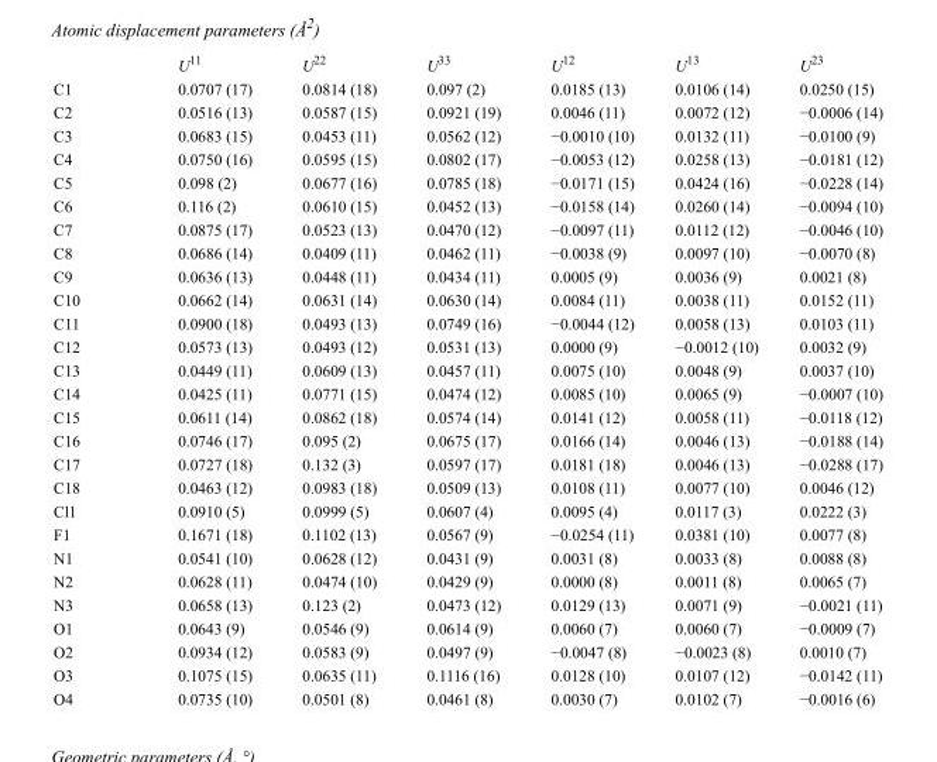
<table><thead><tr><td></td><td>U<sup>11</sup></td><td>U<sup>22</sup></td><td>U<sup>33</sup></td><td>U<sup>12</sup></td><td>U<sup>13</sup></td><td>U<sup>23</sup></td></tr></thead><tbody><tr><td>C1</td><td>0.0707 (17)</td><td>0.0814 (18)</td><td>0.097 (2)</td><td>0.0185 (13)</td><td>0.0106 (14)</td><td>0.0250 (15)</td></tr><tr><td>C2</td><td>0.0516 (13)</td><td>0.0587 (15)</td><td>0.0921 (19)</td><td>0.0046 (11)</td><td>0.0072 (12)</td><td>−0.0006 (14)</td></tr><tr><td>C3</td><td>0.0683 (15)</td><td>0.0453 (11)</td><td>0.0562 (12)</td><td>−0.0010 (10)</td><td>0.0132 (11)</td><td>−0.0100 (9)</td></tr><tr><td>C4</td><td>0.0750 (16)</td><td>0.0595 (15)</td><td>0.0802 (17)</td><td>−0.0053 (12)</td><td>0.0258 (13)</td><td>−0.0181 (12)</td></tr><tr><td>C5</td><td>0.098 (2)</td><td>0.0677 (16)</td><td>0.0785 (18)</td><td>−0.0171 (15)</td><td>0.0424 (16)</td><td>−0.0228 (14)</td></tr><tr><td>C6</td><td>0.116 (2)</td><td>0.0610 (15)</td><td>0.0452 (13)</td><td>−0.0158 (14)</td><td>0.0260 (14)</td><td>−0.0094 (10)</td></tr><tr><td>C7</td><td>0.0875 (17)</td><td>0.0523 (13)</td><td>0.0470 (12)</td><td>−0.0097 (11)</td><td>0.0112 (12)</td><td>−0.0046 (10)</td></tr><tr><td>C8</td><td>0.0686 (14)</td><td>0.0409 (11)</td><td>0.0462 (11)</td><td>−0.0038 (9)</td><td>0.0097 (10)</td><td>−0.0070 (8)</td></tr><tr><td>C9</td><td>0.0636 (13)</td><td>0.0448 (11)</td><td>0.0434 (11)</td><td>0.0005 (9)</td><td>0.0036 (9)</td><td>0.0021 (8)</td></tr><tr><td>C10</td><td>0.0662 (14)</td><td>0.0631 (14)</td><td>0.0630 (14)</td><td>0.0084 (11)</td><td>0.0038 (11)</td><td>0.0152 (11)</td></tr><tr><td>C11</td><td>0.0900 (18)</td><td>0.0493 (13)</td><td>0.0749 (16)</td><td>−0.0044 (12)</td><td>0.0058 (13)</td><td>0.0103 (11)</td></tr><tr><td>C12</td><td>0.0573 (13)</td><td>0.0493 (12)</td><td>0.0531 (13)</td><td>0.0000 (9)</td><td>−0.0012 (10)</td><td>0.0032 (9)</td></tr><tr><td>C13</td><td>0.0449 (11)</td><td>0.0609 (13)</td><td>0.0457 (11)</td><td>0.0075 (10)</td><td>0.0048 (9)</td><td>0.0037 (10)</td></tr><tr><td>C14</td><td>0.0425 (11)</td><td>0.0771 (15)</td><td>0.0474 (12)</td><td>0.0085 (10)</td><td>0.0065 (9)</td><td>−0.0007 (10)</td></tr><tr><td>C15</td><td>0.0611 (14)</td><td>0.0862 (18)</td><td>0.0574 (14)</td><td>0.0141 (12)</td><td>0.0058 (11)</td><td>−0.0118 (12)</td></tr><tr><td>C16</td><td>0.0746 (17)</td><td>0.095 (2)</td><td>0.0675 (17)</td><td>0.0166 (14)</td><td>0.0046 (13)</td><td>−0.0188 (14)</td></tr><tr><td>C17</td><td>0.0727 (18)</td><td>0.132 (3)</td><td>0.0597 (17)</td><td>0.0181 (18)</td><td>0.0046 (13)</td><td>−0.0288 (17)</td></tr><tr><td>C18</td><td>0.0463 (12)</td><td>0.0983 (18)</td><td>0.0509 (13)</td><td>0.0108 (11)</td><td>0.0077 (10)</td><td>0.0046 (12)</td></tr><tr><td>Cl1</td><td>0.0910 (5)</td><td>0.0999 (5)</td><td>0.0607 (4)</td><td>0.0095 (4)</td><td>0.0117 (3)</td><td>0.0222 (3)</td></tr><tr><td>F1</td><td>0.1671 (18)</td><td>0.1102 (13)</td><td>0.0567 (9)</td><td>−0.0254 (11)</td><td>0.0381 (10)</td><td>0.0077 (8)</td></tr><tr><td>N1</td><td>0.0541 (10)</td><td>0.0628 (12)</td><td>0.0431 (9)</td><td>0.0031 (8)</td><td>0.0033 (8)</td><td>0.0088 (8)</td></tr><tr><td>N2</td><td>0.0628 (11)</td><td>0.0474 (10)</td><td>0.0429 (9)</td><td>0.0000 (8)</td><td>0.0011 (8)</td><td>0.0065 (7)</td></tr><tr><td>N3</td><td>0.0658 (13)</td><td>0.123 (2)</td><td>0.0473 (12)</td><td>0.0129 (13)</td><td>0.0071 (9)</td><td>−0.0021 (11)</td></tr><tr><td>O1</td><td>0.0643 (9)</td><td>0.0546 (9)</td><td>0.0614 (9)</td><td>0.0060 (7)</td><td>0.0060 (7)</td><td>−0.0009 (7)</td></tr><tr><td>O2</td><td>0.0934 (12)</td><td>0.0583 (9)</td><td>0.0497 (9)</td><td>−0.0047 (8)</td><td>−0.0023 (8)</td><td>0.0010 (7)</td></tr><tr><td>O3</td><td>0.1075 (15)</td><td>0.0635 (11)</td><td>0.1116 (16)</td><td>0.0128 (10)</td><td>0.0107 (12)</td><td>−0.0142 (11)</td></tr><tr><td>O4</td><td>0.0735 (10)</td><td>0.0501 (8)</td><td>0.0461 (8)</td><td>0.0030 (7)</td><td>0.0102 (7)</td><td>−0.0016 (6)</td></tr></tbody></table>